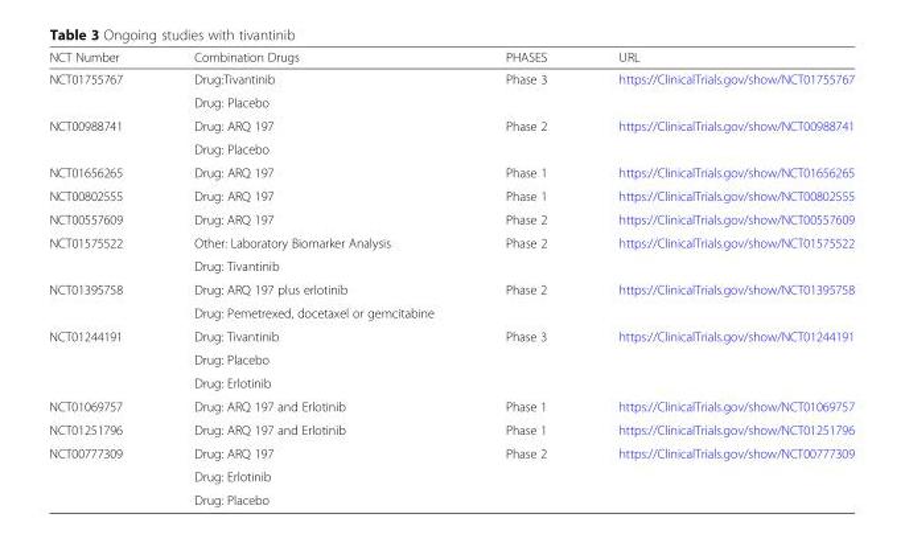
<table><thead><tr><td>NCT Number</td><td>Combination Drugs</td><td>PHASES</td><td>URL</td></tr></thead><tbody><tr><td rowspan="2">NCT01755767</td><td>Drug:Tivantinib</td><td rowspan="2">Phase 3</td><td rowspan="2">https://ClinicalTrials.gov/show/NCT01755767</td></tr><tr><td>Drug: Placebo</td></tr><tr><td rowspan="2">NCT00988741</td><td>Drug: ARQ 197</td><td rowspan="2">Phase 2</td><td rowspan="2">https://ClinicalTrials.gov/show/NCT00988741</td></tr><tr><td>Drug: Placebo</td></tr><tr><td>NCT01656265</td><td>Drug: ARQ 197</td><td>Phase 1</td><td>https://ClinicalTrials.gov/show/NCT01656265</td></tr><tr><td>NCT00802555</td><td>Drug: ARQ 197</td><td>Phase 1</td><td>https://ClinicalTrials.gov/show/NCT00802555</td></tr><tr><td>NCT00557609</td><td>Drug: ARQ 197</td><td>Phase 2</td><td>https://ClinicalTrials.gov/show/NCT00557609</td></tr><tr><td rowspan="2">NCT01575522</td><td>Other: Laboratory Biomarker Analysis</td><td rowspan="2">Phase 2</td><td rowspan="2">https://ClinicalTrials.gov/show/NCT01575522</td></tr><tr><td>Drug: Tivantinib</td></tr><tr><td rowspan="2">NCT01395758</td><td>Drug: ARQ 197 plus erlotinib</td><td rowspan="2">Phase 2</td><td rowspan="2">https://ClinicalTrials.gov/show/NCT01395758</td></tr><tr><td>Drug: Pemetrexed, docetaxel or gemcitabine</td></tr><tr><td rowspan="3">NCT01244191</td><td>Drug: Tivantinib</td><td rowspan="3">Phase 3</td><td rowspan="3">https://ClinicalTrials.gov/show/NCT01244191</td></tr><tr><td>Drug: Placebo</td></tr><tr><td>Drug: Erlotinib</td></tr><tr><td>NCT01069757</td><td>Drug: ARQ 197 and Erlotinib</td><td>Phase 1</td><td>https://ClinicalTrials.gov/show/NCT01069757</td></tr><tr><td>NCT01251796</td><td>Drug: ARQ 197 and Erlotinib</td><td>Phase 1</td><td>https://ClinicalTrials.gov/show/NCT01251796</td></tr><tr><td rowspan="3">NCT00777309</td><td>Drug: ARQ 197</td><td rowspan="3">Phase 2</td><td rowspan="3">https://ClinicalTrials.gov/show/NCT00777309</td></tr><tr><td>Drug: Erlotinib</td></tr><tr><td>Drug: Placebo</td></tr></tbody></table>